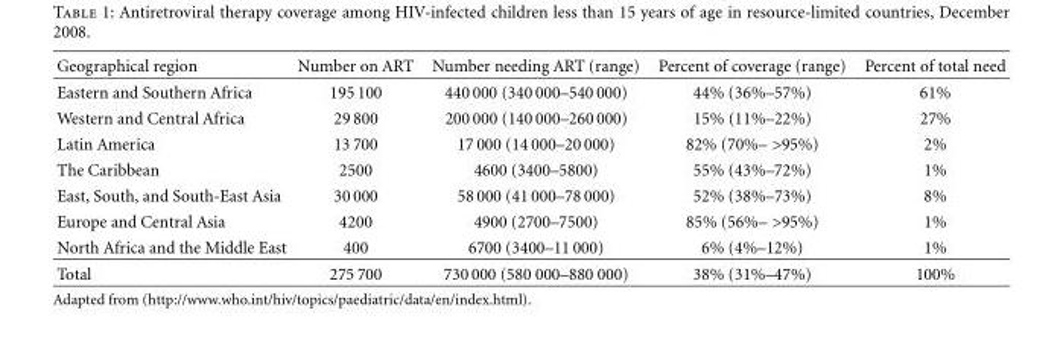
<table><thead><tr><td>Geographical region</td><td>Number on ART</td><td>Number needing ART (range)</td><td>Percent of coverage (range)</td><td>Percent of total need</td></tr></thead><tbody><tr><td>Eastern and Southern Africa</td><td>195 100</td><td>440 000 (340 000–540 000)</td><td>44% (36%–57%)</td><td>61%</td></tr><tr><td>Western and Central Africa</td><td>29 800</td><td>200 000 (140 000–260 000)</td><td>15% (11%–22%)</td><td>27%</td></tr><tr><td>Latin America</td><td>13 700</td><td>17 000 (14 000–20 000)</td><td>82% (70%– &gt;95%)</td><td>2%</td></tr><tr><td>The Caribbean</td><td>2500</td><td>4600 (3400–5800)</td><td>55% (43%–72%)</td><td>1%</td></tr><tr><td>East, South, and South-East Asia</td><td>30 000</td><td>58 000 (41 000–78 000)</td><td>52% (38%–73%)</td><td>8%</td></tr><tr><td>Europe and Central Asia</td><td>4200</td><td>4900 (2700–7500)</td><td>85% (56%– &gt;95%)</td><td>1%</td></tr><tr><td>North Africa and the Middle East</td><td>400</td><td>6700 (3400–11 000)</td><td>6% (4%–12%)</td><td>1%</td></tr><tr><td>Total</td><td>275 700</td><td>730 000 (580 000–880 000)</td><td>38% (31%–47%)</td><td>100%</td></tr></tbody></table>